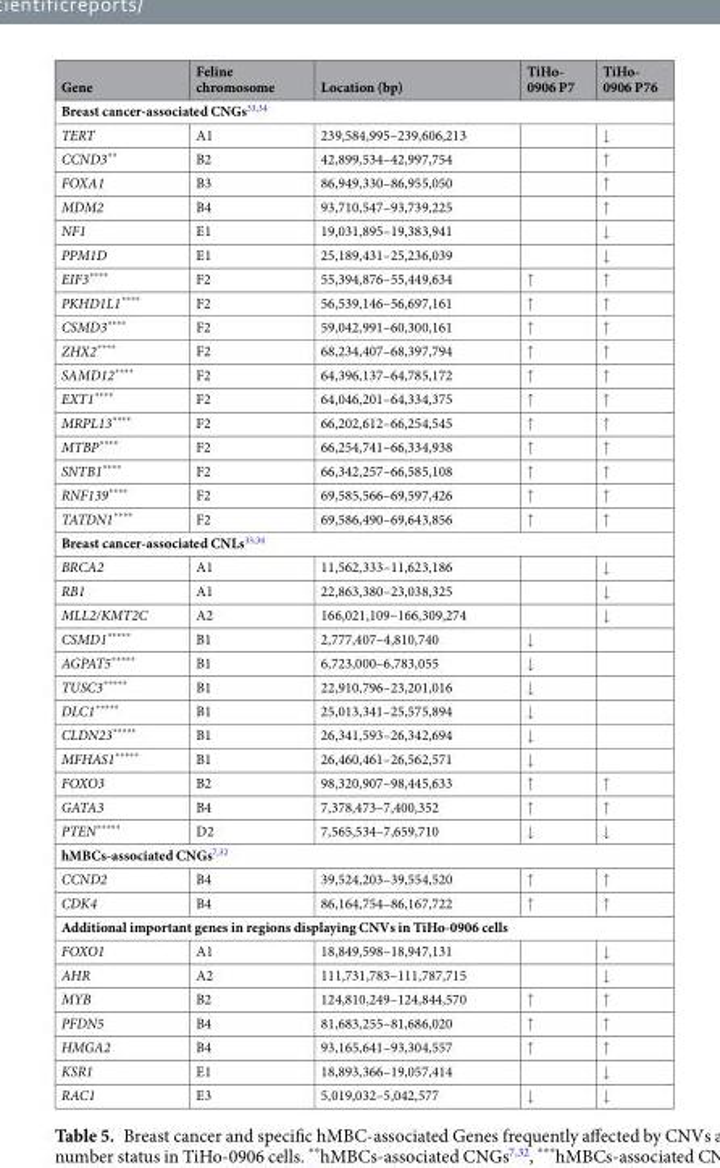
<table><thead><tr><td>Gene</td><td>Feline chromosome</td><td>Location (bp)</td><td>TiHo- 0906 P7</td><td>TiHo- 0906 P76</td></tr></thead><tbody><tr><td colspan="5">Breast cancer-associated CNGs<sup>33,34</sup></td></tr><tr><td>TERT</td><td>A1</td><td>239,584,995–239,606,213</td><td></td><td>↓</td></tr><tr><td>CCND3**</td><td>B2</td><td>42,899,534–42,997,754</td><td></td><td>↑</td></tr><tr><td>FOXA1</td><td>B3</td><td>86,949,330–86,955,050</td><td></td><td>↑</td></tr><tr><td>MDM2</td><td>B4</td><td>93,710,547–93,739,225</td><td></td><td>↑</td></tr><tr><td>NF1</td><td>E1</td><td>19,031,895–19,383,941</td><td></td><td>↓</td></tr><tr><td>PPM1D</td><td>E1</td><td>25,189,431–25,236,039</td><td></td><td>↓</td></tr><tr><td>EIF3****</td><td>F2</td><td>55,394,876–55,449,634</td><td>↑</td><td>↑</td></tr><tr><td>PKHD1L1****</td><td>F2</td><td>56,539,146–56,697,161</td><td>↑</td><td>↑</td></tr><tr><td>CSMD3****</td><td>F2</td><td>59,042,991–60,300,161</td><td>↑</td><td>↑</td></tr><tr><td>ZHX2****</td><td>F2</td><td>68,234,407–68,397,794</td><td>↑</td><td>↑</td></tr><tr><td>SAMD12****</td><td>F2</td><td>64,396,137–64,785,172</td><td>↑</td><td>↑</td></tr><tr><td>EXT1****</td><td>F2</td><td>64,046,201–64,334,375</td><td>↑</td><td>↑</td></tr><tr><td>MRPL13****</td><td>F2</td><td>66,202,612–66,254,545</td><td>↑</td><td>↑</td></tr><tr><td>MTBP****</td><td>F2</td><td>66,254,741–66,334,938</td><td>↑</td><td>↑</td></tr><tr><td>SNTB1****</td><td>F2</td><td>66,342,257–66,585,108</td><td>↑</td><td>↑</td></tr><tr><td>RNF139****</td><td>F2</td><td>69,585,566–69,597,426</td><td>↑</td><td>↑</td></tr><tr><td>TATDN1****</td><td>F2</td><td>69,586,490–69,643,856</td><td>↑</td><td>↑</td></tr><tr><td colspan="5">Breast cancer-associated CNLs<sup>33,34</sup></td></tr><tr><td>BRCA2</td><td>A1</td><td>11,562,333–11,623,186</td><td></td><td>↓</td></tr><tr><td>RB1</td><td>A1</td><td>22,863,380–23,038,325</td><td></td><td>↓</td></tr><tr><td>MLL2/KMT2C</td><td>A2</td><td>166,021,109–166,309,274</td><td></td><td>↓</td></tr><tr><td>CSMD1*****</td><td>B1</td><td>2,777,407–4,810,740</td><td>↓</td><td></td></tr><tr><td>AGPAT5*****</td><td>B1</td><td>6,723,000–6,783,055</td><td>↓</td><td></td></tr><tr><td>TUSC3*****</td><td>B1</td><td>22,910,796–23,201,016</td><td>↓</td><td></td></tr><tr><td>DLC1*****</td><td>B1</td><td>25,013,341–25,575,894</td><td>↓</td><td></td></tr><tr><td>CLDN23*****</td><td>B1</td><td>26,341,593–26,342,694</td><td>↓</td><td></td></tr><tr><td>MFHAS1*****</td><td>B1</td><td>26,460,461–26,562,571</td><td>↓</td><td></td></tr><tr><td>FOXO3</td><td>B2</td><td>98,320,907–98,445,633</td><td>↑</td><td>↑</td></tr><tr><td>GATA3</td><td>B4</td><td>7,378,473–7,400,352</td><td>↑</td><td>↑</td></tr><tr><td>PTEN*****</td><td>D2</td><td>7,565,534–7,659,710</td><td>↓</td><td>↓</td></tr><tr><td colspan="5">hMBCs-associated CNGs<sup>7,32</sup></td></tr><tr><td>CCND2</td><td>B4</td><td>39,524,203–39,554,520</td><td>↑</td><td>↑</td></tr><tr><td>CDK4</td><td>B4</td><td>86,164,754–86,167,722</td><td>↑</td><td>↑</td></tr><tr><td colspan="5">Additional important genes in regions displaying CNVs in TiHo-0906 cells</td></tr><tr><td>FOXO1</td><td>A1</td><td>18,849,598–18,947,131</td><td></td><td>↓</td></tr><tr><td>AHR</td><td>A2</td><td>111,731,783–111,787,715</td><td></td><td>↓</td></tr><tr><td>MYB</td><td>B2</td><td>124,810,249–124,844,570</td><td>↑</td><td>↑</td></tr><tr><td>PFDN5</td><td>B4</td><td>81,683,255–81,686,020</td><td>↑</td><td>↑</td></tr><tr><td>HMGA2</td><td>B4</td><td>93,165,641–93,304,557</td><td>↑</td><td>↑</td></tr><tr><td>KSR1</td><td>E1</td><td>18,893,366–19,057,414</td><td></td><td>↓</td></tr><tr><td>RAC1</td><td>E3</td><td>5,019,032–5,042,577</td><td>↓</td><td>↓</td></tr></tbody></table>